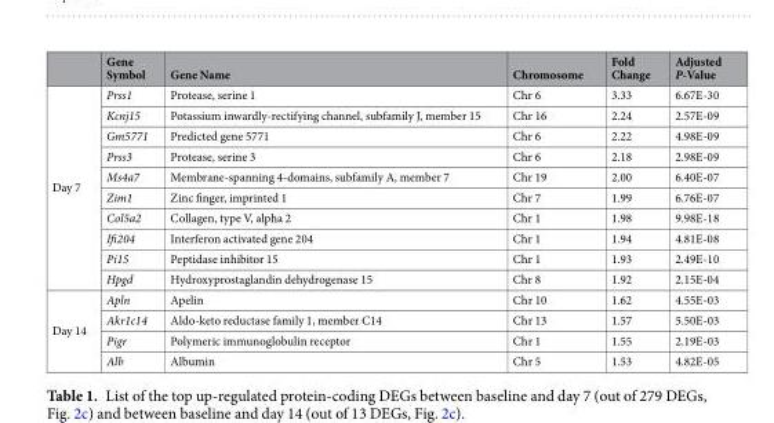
<table><thead><tr><td></td><td>Gene Symbol</td><td>Gene Name</td><td>Chromosome</td><td>Fold Change</td><td>Adjusted P-Value</td></tr></thead><tbody><tr><td rowspan="10">Day 7</td><td>Prss1</td><td>Protease, serine 1</td><td>Chr 6</td><td>3.33</td><td>6.67E-30</td></tr><tr><td>Kcnj15</td><td>Potassium inwardly-rectifying channel, subfamily J, member 15</td><td>Chr 16</td><td>2.24</td><td>2.57E-09</td></tr><tr><td>Gm5771</td><td>Predicted gene 5771</td><td>Chr 6</td><td>2.22</td><td>4.98E-09</td></tr><tr><td>Prss3</td><td>Protease, serine 3</td><td>Chr 6</td><td>2.18</td><td>2.98E-09</td></tr><tr><td>Ms4a7</td><td>Membrane-spanning 4-domains, subfamily A, member 7</td><td>Chr 19</td><td>2.00</td><td>6.40E-07</td></tr><tr><td>Zim1</td><td>Zinc finger, imprinted 1</td><td>Chr 7</td><td>1.99</td><td>6.76E-07</td></tr><tr><td>Col5a2</td><td>Collagen, type V, alpha 2</td><td>Chr 1</td><td>1.98</td><td>9.98E-18</td></tr><tr><td>Ifi204</td><td>Interferon activated gene 204</td><td>Chr 1</td><td>1.94</td><td>4.81E-08</td></tr><tr><td>Pi15</td><td>Peptidase inhibitor 15</td><td>Chr 1</td><td>1.93</td><td>2.49E-10</td></tr><tr><td>Hpgd</td><td>Hydroxyprostaglandin dehydrogenase 15</td><td>Chr 8</td><td>1.92</td><td>2.15E-04</td></tr><tr><td rowspan="4">Day 14</td><td>Apln</td><td>Apelin</td><td>Chr 10</td><td>1.62</td><td>4.55E-03</td></tr><tr><td>Akr1c14</td><td>Aldo-keto reductase family 1, member C14</td><td>Chr 13</td><td>1.57</td><td>5.50E-03</td></tr><tr><td>Pigr</td><td>Polymeric immunoglobulin receptor</td><td>Chr 1</td><td>1.55</td><td>2.19E-03</td></tr><tr><td>Alb</td><td>Albumin</td><td>Chr 5</td><td>1.53</td><td>4.82E-05</td></tr></tbody></table>